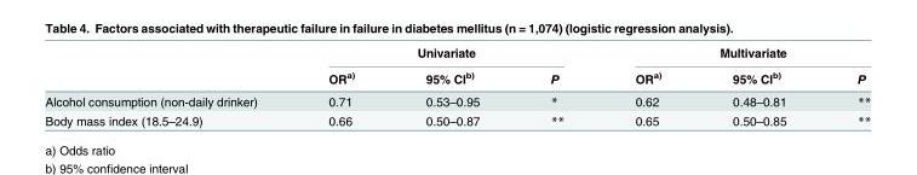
<table><thead><tr><td rowspan="2"></td><td colspan="3">Univariate</td><td colspan="3">Multivariate</td></tr><tr><td>OR<sup>a)</sup></td><td>95% CI<sup>b)</sup></td><td>P</td><td>OR<sup>a)</sup></td><td>95% CI<sup>b)</sup></td><td>P</td></tr></thead><tbody><tr><td>Alcohol consumption (non-daily drinker)</td><td>0.71</td><td>0.53–0.95</td><td>*</td><td>0.62</td><td>0.48–0.81</td><td>**</td></tr><tr><td>Body mass index (18.5–24.9)</td><td>0.66</td><td>0.50–0.87</td><td>**</td><td>0.65</td><td>0.50–0.85</td><td>**</td></tr></tbody></table>